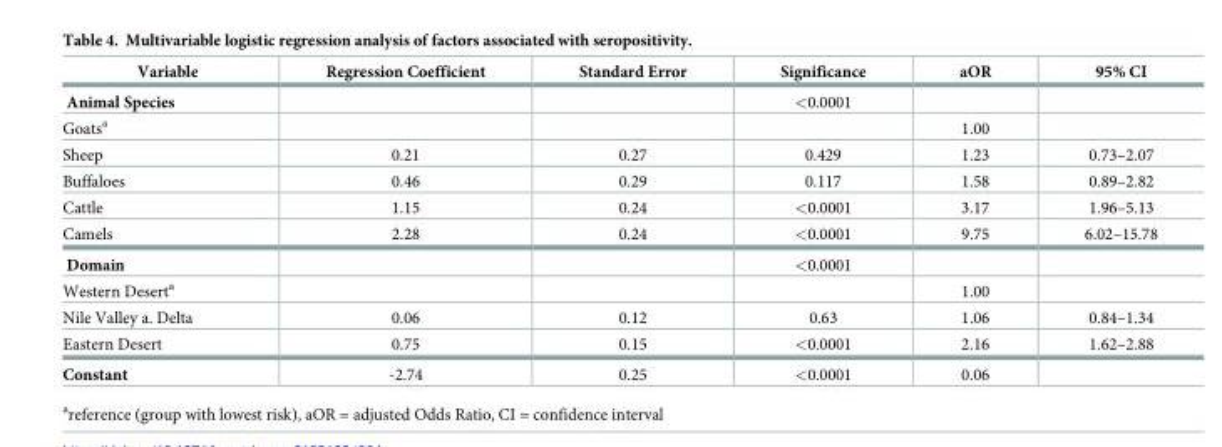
<table><thead><tr><td>Variable</td><td>Regression Coefficient</td><td>Standard Error</td><td>Significance</td><td>aOR</td><td>95% CI</td></tr></thead><tbody><tr><td>Animal Species</td><td></td><td></td><td>&lt;0.0001</td><td></td><td></td></tr><tr><td>Goats<sup>a</sup></td><td></td><td></td><td></td><td>1.00</td><td></td></tr><tr><td>Sheep</td><td>0.21</td><td>0.27</td><td>0.429</td><td>1.23</td><td>0.73–2.07</td></tr><tr><td>Buffaloes</td><td>0.46</td><td>0.29</td><td>0.117</td><td>1.58</td><td>0.89–2.82</td></tr><tr><td>Cattle</td><td>1.15</td><td>0.24</td><td>&lt;0.0001</td><td>3.17</td><td>1.96–5.13</td></tr><tr><td>Camels</td><td>2.28</td><td>0.24</td><td>&lt;0.0001</td><td>9.75</td><td>6.02–15.78</td></tr><tr><td>Domain</td><td></td><td></td><td>&lt;0.0001</td><td></td><td></td></tr><tr><td>Western Desert<sup>a</sup></td><td></td><td></td><td></td><td>1.00</td><td></td></tr><tr><td>Nile Valley a. Delta</td><td>0.06</td><td>0.12</td><td>0.63</td><td>1.06</td><td>0.84–1.34</td></tr><tr><td>Eastern Desert</td><td>0.75</td><td>0.15</td><td>&lt;0.0001</td><td>2.16</td><td>1.62–2.88</td></tr><tr><td>Constant</td><td>-2.74</td><td>0.25</td><td>&lt;0.0001</td><td>0.06</td><td></td></tr></tbody></table>